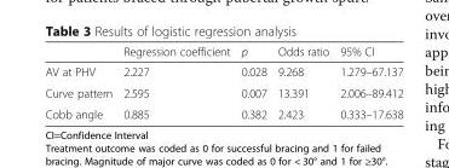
<table><thead><tr><td></td><td>Regression coefficient</td><td>p</td><td>Odds ratio</td><td>95% CI</td></tr></thead><tbody><tr><td>AV at PHV</td><td>2.227</td><td>0.028</td><td>9.268</td><td>1.279–67.137</td></tr><tr><td>Curve pattern</td><td>2.595</td><td>0.007</td><td>13.391</td><td>2.006–89.412</td></tr><tr><td>Cobb angle</td><td>0.885</td><td>0.382</td><td>2.423</td><td>0.333–17.638</td></tr></tbody></table>